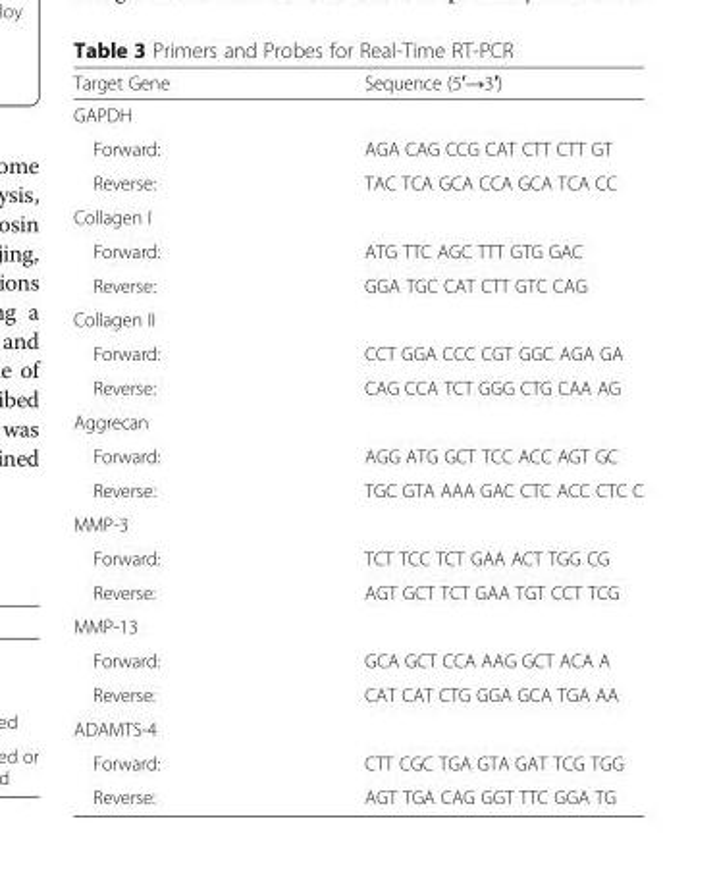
<table><thead><tr><td>Target Gene</td><td>Sequence (5′→3′)</td></tr></thead><tbody><tr><td colspan="2">GAPDH</td></tr><tr><td>Forward:</td><td>AGA CAG CCG CAT CTT CTT GT</td></tr><tr><td>Reverse:</td><td>TAC TCA GCA CCA GCA TCA CC</td></tr><tr><td colspan="2">Collagen I</td></tr><tr><td>Forward:</td><td>ATG TTC AGC TTT GTG GAC</td></tr><tr><td>Reverse:</td><td>GGA TGC CAT CTT GTC CAG</td></tr><tr><td colspan="2">Collagen II</td></tr><tr><td>Forward:</td><td>CCT GGA CCC CGT GGC AGA GA</td></tr><tr><td>Reverse:</td><td>CAG CCA TCT GGG CTG CAA AG</td></tr><tr><td colspan="2">Aggrecan</td></tr><tr><td>Forward:</td><td>AGG ATG GCT TCC ACC AGT GC</td></tr><tr><td>Reverse:</td><td>TGC GTA AAA GAC CTC ACC CTC C</td></tr><tr><td colspan="2">MMP-3</td></tr><tr><td>Forward:</td><td>TCT TCC TCT GAA ACT TGG CG</td></tr><tr><td>Reverse:</td><td>AGT GCT TCT GAA TGT CCT TCG</td></tr><tr><td colspan="2">MMP-13</td></tr><tr><td>Forward:</td><td>GCA GCT CCA AAG GCT ACA A</td></tr><tr><td>Reverse:</td><td>CAT CAT CTG GGA GCA TGA AA</td></tr><tr><td colspan="2">ADAMTS-4</td></tr><tr><td>Forward:</td><td>CTT CGC TGA GTA GAT TCG TGG</td></tr><tr><td>Reverse:</td><td>AGT TGA CAG GGT TTC GGA TG</td></tr></tbody></table>